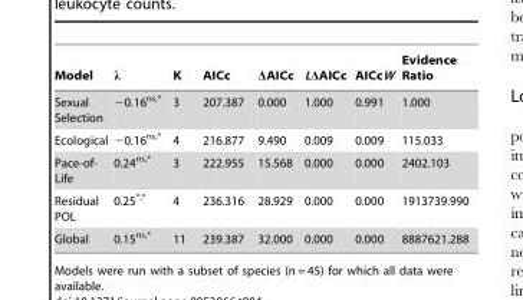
<table><thead><tr><td>Model</td><td>λ</td><td>K</td><td>AICc</td><td>ΔAICc</td><td>LΔAICc</td><td>AICcW</td><td>Evidence Ratio</td></tr></thead><tbody><tr><td>Sexual Selection</td><td>−0.16<sup>ns,*</sup></td><td>3</td><td>207.387</td><td>0.000</td><td>1.000</td><td>0.991</td><td>1.000</td></tr><tr><td>Ecological</td><td>−0.16<sup>ns,*</sup></td><td>4</td><td>216.877</td><td>9.490</td><td>0.009</td><td>0.009</td><td>115.033</td></tr><tr><td>Pace-of- Life</td><td>0.24<sup>ns,*</sup></td><td>3</td><td>222.955</td><td>15.568</td><td>0.000</td><td>0.000</td><td>2402.103</td></tr><tr><td>Residual POL</td><td>0.25<sup>*,*</sup></td><td>4</td><td>236.316</td><td>28.929</td><td>0.000</td><td>0.000</td><td>1913739.990</td></tr><tr><td>Global</td><td>0.15<sup>ns,*</sup></td><td>11</td><td>239.387</td><td>32.000</td><td>0.000</td><td>0.000</td><td>8887621.288</td></tr></tbody></table>